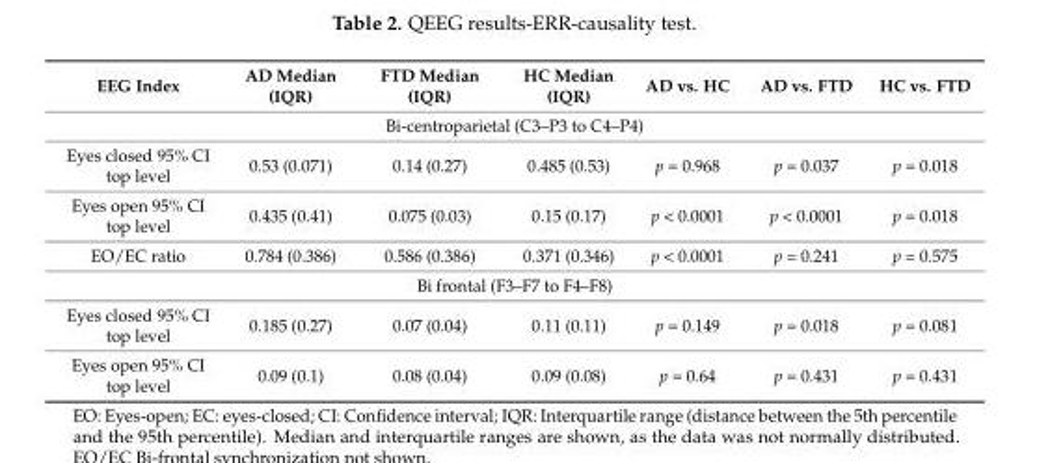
<table><thead><tr><td>EEG Index</td><td>AD Median (IQR)</td><td>FTD Median (IQR)</td><td>HC Median (IQR)</td><td>AD vs. HC</td><td>AD vs. FTD</td><td>HC vs. FTD</td></tr></thead><tbody><tr><td colspan="7">Bi-centroparietal (C3–P3 to C4–P4)</td></tr><tr><td>Eyes closed 95% CI top level</td><td>0.53 (0.071)</td><td>0.14 (0.27)</td><td>0.485 (0.53)</td><td>p = 0.968</td><td>p = 0.037</td><td>p = 0.018</td></tr><tr><td>Eyes open 95% CI top level</td><td>0.435 (0.41)</td><td>0.075 (0.03)</td><td>0.15 (0.17)</td><td>p &lt; 0.0001</td><td>p &lt; 0.0001</td><td>p = 0.018</td></tr><tr><td>EO/EC ratio</td><td>0.784 (0.386)</td><td>0.586 (0.386)</td><td>0.371 (0.346)</td><td>p &lt; 0.0001</td><td>p = 0.241</td><td>p = 0.575</td></tr><tr><td colspan="7">Bi frontal (F3–F7 to F4–F8)</td></tr><tr><td>Eyes closed 95% CI top level</td><td>0.185 (0.27)</td><td>0.07 (0.04)</td><td>0.11 (0.11)</td><td>p = 0.149</td><td>p = 0.018</td><td>p = 0.081</td></tr><tr><td>Eyes open 95% CI top level</td><td>0.09 (0.1)</td><td>0.08 (0.04)</td><td>0.09 (0.08)</td><td>p = 0.64</td><td>p = 0.431</td><td>p = 0.431</td></tr></tbody></table>